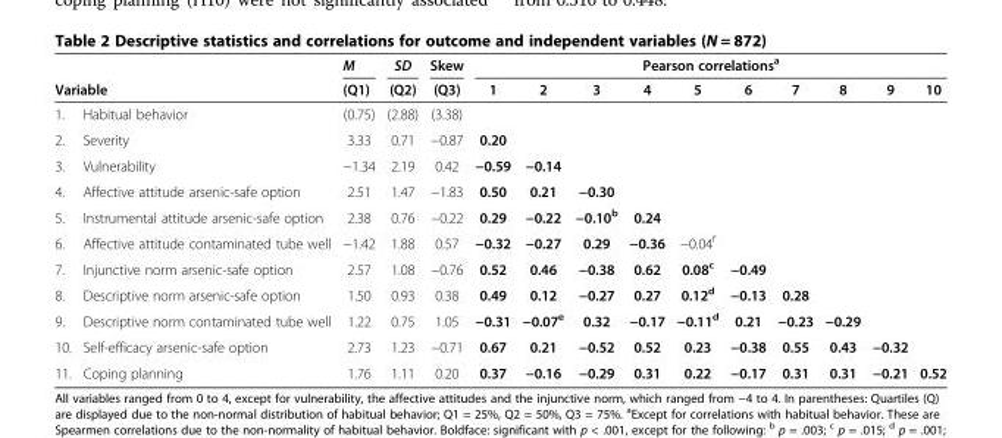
<table><thead><tr><td></td><td></td><td rowspan="2">M (Q1)</td><td rowspan="2">SD (Q2)</td><td rowspan="2">Skew (Q3)</td><td colspan="10">Pearson correlations<sup>a</sup></td></tr><tr><td colspan="2">Variable</td><td>1</td><td>2</td><td>3</td><td>4</td><td>5</td><td>6</td><td>7</td><td>8</td><td>9</td><td>10</td></tr></thead><tbody><tr><td>1.</td><td>Habitual behavior</td><td>(0.75)</td><td>(2.88)</td><td>(3.38)</td><td></td><td></td><td></td><td></td><td></td><td></td><td></td><td></td><td></td><td></td></tr><tr><td>2.</td><td>Severity</td><td>3.33</td><td>0.71</td><td>−0.87</td><td>0.20</td><td></td><td></td><td></td><td></td><td></td><td></td><td></td><td></td><td></td></tr><tr><td>3.</td><td>Vulnerability</td><td>−1.34</td><td>2.19</td><td>0.42</td><td>−0.59</td><td>−0.14</td><td></td><td></td><td></td><td></td><td></td><td></td><td></td><td></td></tr><tr><td>4.</td><td>Affective attitude arsenic-safe option</td><td>2.51</td><td>1.47</td><td>−1.83</td><td>0.50</td><td>0.21</td><td>−0.30</td><td></td><td></td><td></td><td></td><td></td><td></td><td></td></tr><tr><td>5.</td><td>Instrumental attitude arsenic-safe option</td><td>2.38</td><td>0.76</td><td>−0.22</td><td>0.29</td><td>−0.22</td><td>−0.10<sup>b</sup></td><td>0.24</td><td></td><td></td><td></td><td></td><td></td><td></td></tr><tr><td>6.</td><td>Affective attitude contaminated tube well</td><td>−1.42</td><td>1.88</td><td>0.57</td><td>−0.32</td><td>−0.27</td><td>0.29</td><td>−0.36</td><td>−0.04<sup>f</sup></td><td></td><td></td><td></td><td></td><td></td></tr><tr><td>7.</td><td>Injunctive norm arsenic-safe option</td><td>2.57</td><td>1.08</td><td>−0.76</td><td>0.52</td><td>0.46</td><td>−0.38</td><td>0.62</td><td>0.08<sup>c</sup></td><td>−0.49</td><td></td><td></td><td></td><td></td></tr><tr><td>8.</td><td>Descriptive norm arsenic-safe option</td><td>1.50</td><td>0.93</td><td>0.38</td><td>0.49</td><td>0.12</td><td>−0.27</td><td>0.27</td><td>0.12<sup>d</sup></td><td>−0.13</td><td>0.28</td><td></td><td></td><td></td></tr><tr><td>9.</td><td>Descriptive norm contaminated tube well</td><td>1.22</td><td>0.75</td><td>1.05</td><td>−0.31</td><td>−0.07<sup>e</sup></td><td>0.32</td><td>−0.17</td><td>−0.11<sup>d</sup></td><td>0.21</td><td>−0.23</td><td>−0.29</td><td></td><td></td></tr><tr><td>10.</td><td>Self-efficacy arsenic-safe option</td><td>2.73</td><td>1.23</td><td>−0.71</td><td>0.67</td><td>0.21</td><td>−0.52</td><td>0.52</td><td>0.23</td><td>−0.38</td><td>0.55</td><td>0.43</td><td>−0.32</td><td></td></tr><tr><td>11.</td><td>Coping planning</td><td>1.76</td><td>1.11</td><td>0.20</td><td>0.37</td><td>−0.16</td><td>−0.29</td><td>0.31</td><td>0.22</td><td>−0.17</td><td>0.31</td><td>0.31</td><td>−0.21</td><td>0.52</td></tr></tbody></table>